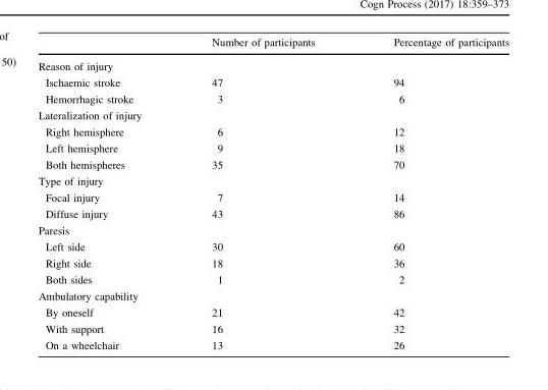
<table><thead><tr><td></td><td>Number of participants</td><td>Percentage of participants</td></tr></thead><tbody><tr><td colspan="3">Reason of injury</td></tr><tr><td>Ischaemic stroke</td><td>47</td><td>94</td></tr><tr><td>Hemorrhagic stroke</td><td>3</td><td>6</td></tr><tr><td colspan="3">Lateralization of injury</td></tr><tr><td>Right hemisphere</td><td>6</td><td>12</td></tr><tr><td>Left hemisphere</td><td>9</td><td>18</td></tr><tr><td>Both hemispheres</td><td>35</td><td>70</td></tr><tr><td colspan="3">Type of injury</td></tr><tr><td>Focal injury</td><td>7</td><td>14</td></tr><tr><td>Diffuse injury</td><td>43</td><td>86</td></tr><tr><td colspan="3">Paresis</td></tr><tr><td>Left side</td><td>30</td><td>60</td></tr><tr><td>Right side</td><td>18</td><td>36</td></tr><tr><td>Both sides</td><td>1</td><td>2</td></tr><tr><td colspan="3">Ambulatory capability</td></tr><tr><td>By oneself</td><td>21</td><td>42</td></tr><tr><td>With support</td><td>16</td><td>32</td></tr><tr><td>On a wheelchair</td><td>13</td><td>26</td></tr></tbody></table>